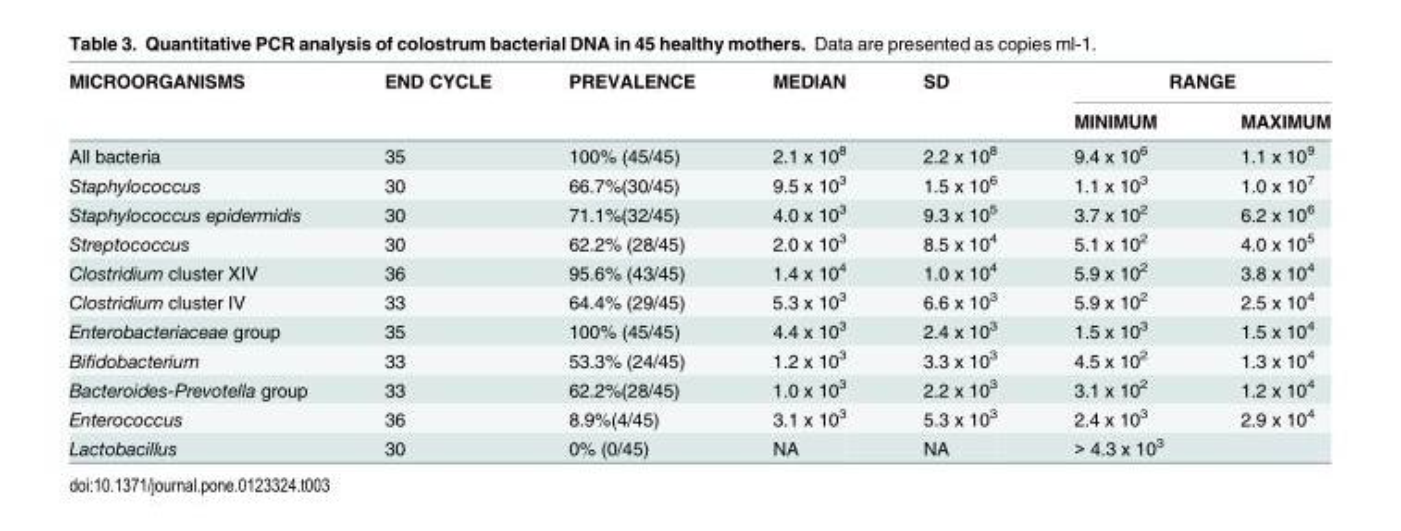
<table><thead><tr><td rowspan="2">MICROORGANISMS</td><td rowspan="2">END CYCLE</td><td rowspan="2">PREVALENCE</td><td rowspan="2">MEDIAN</td><td rowspan="2">SD</td><td colspan="2">RANGE</td></tr><tr><td>MINIMUM</td><td>MAXIMUM</td></tr></thead><tbody><tr><td>All bacteria</td><td>35</td><td>100% (45/45)</td><td>2.1 x 10<sup>8</sup></td><td>2.2 x 10<sup>8</sup></td><td>9.4 x 10<sup>6</sup></td><td>1.1 x 10<sup>9</sup></td></tr><tr><td>Staphylococcus</td><td>30</td><td>66.7%(30/45)</td><td>9.5 x 10<sup>3</sup></td><td>1.5 x 10<sup>6</sup></td><td>1.1 x 10<sup>3</sup></td><td>1.0 x 10<sup>7</sup></td></tr><tr><td>Staphylococcus epidermidis</td><td>30</td><td>71.1%(32/45)</td><td>4.0 x 10<sup>3</sup></td><td>9.3 x 10<sup>5</sup></td><td>3.7 x 10<sup>2</sup></td><td>6.2 x 10<sup>6</sup></td></tr><tr><td>Streptococcus</td><td>30</td><td>62.2% (28/45)</td><td>2.0 x 10<sup>3</sup></td><td>8.5 x 10<sup>4</sup></td><td>5.1 x 10<sup>2</sup></td><td>4.0 x 10<sup>5</sup></td></tr><tr><td>Clostridium cluster XIV</td><td>36</td><td>95.6% (43/45)</td><td>1.4 x 10<sup>4</sup></td><td>1.0 x 10<sup>4</sup></td><td>5.9 x 10<sup>2</sup></td><td>3.8 x 10<sup>4</sup></td></tr><tr><td>Clostridium cluster IV</td><td>33</td><td>64.4% (29/45)</td><td>5.3 x 10<sup>3</sup></td><td>6.6 x 10<sup>3</sup></td><td>5.9 x 10<sup>2</sup></td><td>2.5 x 10<sup>4</sup></td></tr><tr><td>Enterobacteriaceae group</td><td>35</td><td>100% (45/45)</td><td>4.4 x 10<sup>3</sup></td><td>2.4 x 10<sup>3</sup></td><td>1.5 x 10<sup>3</sup></td><td>1.5 x 10<sup>4</sup></td></tr><tr><td>Bifidobacterium</td><td>33</td><td>53.3% (24/45)</td><td>1.2 x 10<sup>3</sup></td><td>3.3 x 10<sup>3</sup></td><td>4.5 x 10<sup>2</sup></td><td>1.3 x 10<sup>4</sup></td></tr><tr><td>Bacteroides-Prevotella group</td><td>33</td><td>62.2%(28/45)</td><td>1.0 x 10<sup>3</sup></td><td>2.2 x 10<sup>3</sup></td><td>3.1 x 10<sup>2</sup></td><td>1.2 x 10<sup>4</sup></td></tr><tr><td>Enterococcus</td><td>36</td><td>8.9%(4/45)</td><td>3.1 x 10<sup>3</sup></td><td>5.3 x 10<sup>3</sup></td><td>2.4 x 10<sup>3</sup></td><td>2.9 x 10<sup>4</sup></td></tr><tr><td>Lactobacillus</td><td>30</td><td>0% (0/45)</td><td>NA</td><td>NA</td><td>&gt; 4.3 x 10<sup>3</sup></td><td></td></tr></tbody></table>